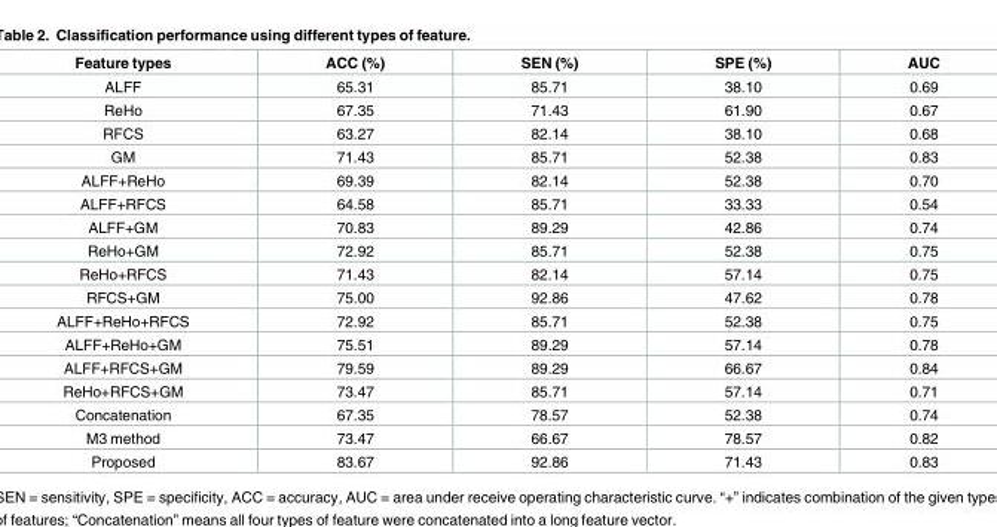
<table><thead><tr><td>Feature types</td><td>ACC (%)</td><td>SEN (%)</td><td>SPE (%)</td><td>AUC</td></tr></thead><tbody><tr><td>ALFF</td><td>65.31</td><td>85.71</td><td>38.10</td><td>0.69</td></tr><tr><td>ReHo</td><td>67.35</td><td>71.43</td><td>61.90</td><td>0.67</td></tr><tr><td>RFCS</td><td>63.27</td><td>82.14</td><td>38.10</td><td>0.68</td></tr><tr><td>GM</td><td>71.43</td><td>85.71</td><td>52.38</td><td>0.83</td></tr><tr><td>ALFF+ReHo</td><td>69.39</td><td>82.14</td><td>52.38</td><td>0.70</td></tr><tr><td>ALFF+RFCS</td><td>64.58</td><td>85.71</td><td>33.33</td><td>0.54</td></tr><tr><td>ALFF+GM</td><td>70.83</td><td>89.29</td><td>42.86</td><td>0.74</td></tr><tr><td>ReHo+GM</td><td>72.92</td><td>85.71</td><td>52.38</td><td>0.75</td></tr><tr><td>ReHo+RFCS</td><td>71.43</td><td>82.14</td><td>57.14</td><td>0.75</td></tr><tr><td>RFCS+GM</td><td>75.00</td><td>92.86</td><td>47.62</td><td>0.78</td></tr><tr><td>ALFF+ReHo+RFCS</td><td>72.92</td><td>85.71</td><td>52.38</td><td>0.75</td></tr><tr><td>ALFF+ReHo+GM</td><td>75.51</td><td>89.29</td><td>57.14</td><td>0.78</td></tr><tr><td>ALFF+RFCS+GM</td><td>79.59</td><td>89.29</td><td>66.67</td><td>0.84</td></tr><tr><td>ReHo+RFCS+GM</td><td>73.47</td><td>85.71</td><td>57.14</td><td>0.71</td></tr><tr><td>Concatenation</td><td>67.35</td><td>78.57</td><td>52.38</td><td>0.74</td></tr><tr><td>M3 method</td><td>73.47</td><td>66.67</td><td>78.57</td><td>0.82</td></tr><tr><td>Proposed</td><td>83.67</td><td>92.86</td><td>71.43</td><td>0.83</td></tr></tbody></table>